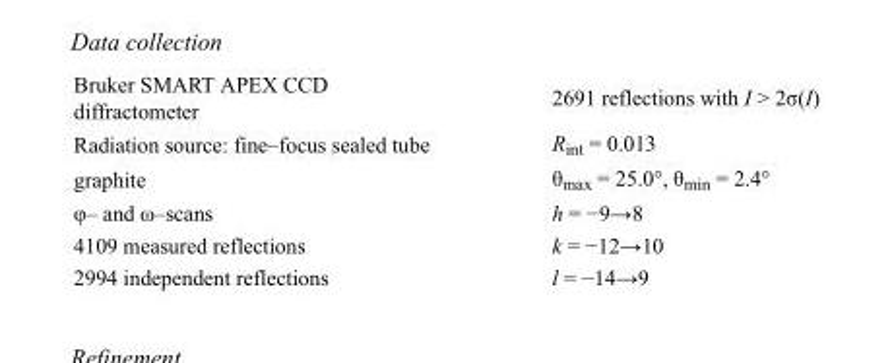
<table><tbody><tr><td>Bruker SMART APEX CCD diffractometer</td><td>2691 reflections with I &gt; 2σ(I)</td></tr><tr><td>Radiation source: fine–focus sealed tube</td><td>R<sub>int</sub> = 0.013</td></tr><tr><td>graphite</td><td>θ<sub>max</sub> = 25.0°, θ<sub>min</sub> = 2.4°</td></tr><tr><td>φ– and ω–scans</td><td>h = −9→8</td></tr><tr><td>4109 measured reflections</td><td>k = −12→10</td></tr><tr><td>2994 independent reflections</td><td>l = −14→9</td></tr></tbody></table>